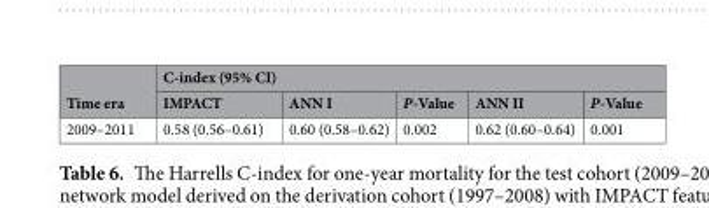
<table><thead><tr><td rowspan="2">Time era</td><td colspan="5">C-index (95% CI)</td></tr><tr><td>IMPACT</td><td>ANN I</td><td>P-Value</td><td>ANN II</td><td>P-Value</td></tr></thead><tbody><tr><td>2009–2011</td><td>0.58 (0.56–0.61)</td><td>0.60 (0.58–0.62)</td><td>0.002</td><td>0.62 (0.60–0.64)</td><td>0.001</td></tr></tbody></table>